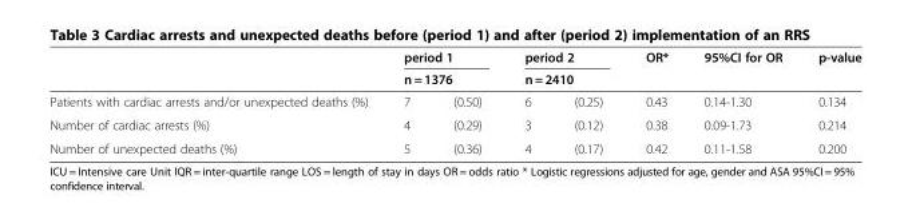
<table><thead><tr><td rowspan="3">Patients with cardiac arrests and/or unexpected deaths (%)</td><td rowspan="2" colspan="2">period 1 n = 1376</td><td rowspan="2" colspan="2">period 2 n = 2410</td><td rowspan="3">OR* 0.43</td><td rowspan="3">95%CI for OR 0.14-1.30</td><td rowspan="3">p-value 0.134</td></tr><tr></tr><tr><td>7</td><td>(0.50)</td><td>6</td><td>(0.25)</td></tr></thead><tbody><tr><td>Number of cardiac arrests (%)</td><td>4</td><td>(0.29)</td><td>3</td><td>(0.12)</td><td>0.38</td><td>0.09-1.73</td><td>0.214</td></tr><tr><td>Number of unexpected deaths (%)</td><td>5</td><td>(0.36)</td><td>4</td><td>(0.17)</td><td>0.42</td><td>0.11-1.58</td><td>0.200</td></tr></tbody></table>